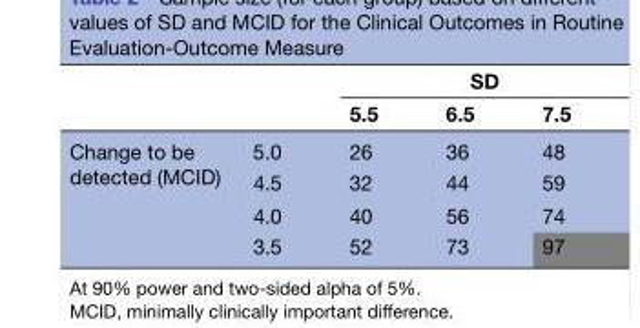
<table><thead><tr><td rowspan="2"></td><td rowspan="2"></td><td colspan="3">SD</td></tr><tr><td>5.5</td><td>6.5</td><td>7.5</td></tr></thead><tbody><tr><td rowspan="4">Change to be detected (MCID)</td><td>5.0</td><td>26</td><td>36</td><td>48</td></tr><tr><td>4.5</td><td>32</td><td>44</td><td>59</td></tr><tr><td>4.0</td><td>40</td><td>56</td><td>74</td></tr><tr><td>3.5</td><td>52</td><td>73</td><td>97</td></tr></tbody></table>